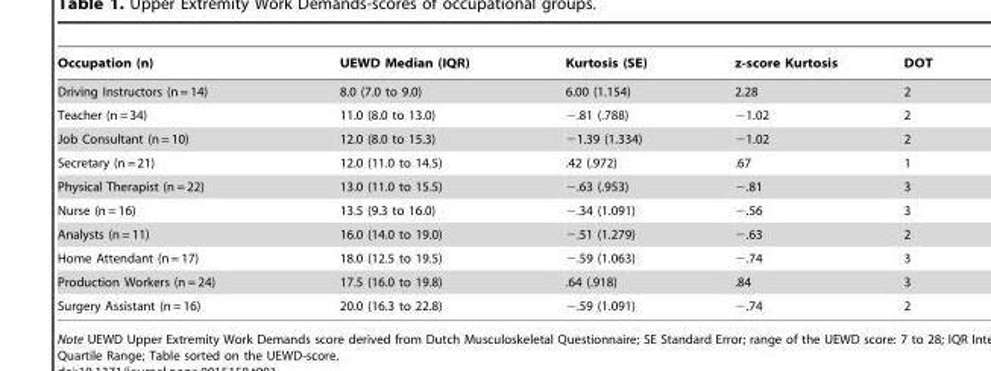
<table><thead><tr><td>Occupation (n)</td><td>UEWD Median (IQR)</td><td>Kurtosis (SE)</td><td>z-score Kurtosis</td><td>DOT</td></tr></thead><tbody><tr><td>Driving Instructors (n = 14)</td><td>8.0 (7.0 to 9.0)</td><td>6.00 (1.154)</td><td>2.28</td><td>2</td></tr><tr><td>Teacher (n = 34)</td><td>11.0 (8.0 to 13.0)</td><td>−.81 (.788)</td><td>−1.02</td><td>2</td></tr><tr><td>Job Consultant (n = 10)</td><td>12.0 (8.0 to 15.3)</td><td>−1.39 (1.334)</td><td>−1.02</td><td>2</td></tr><tr><td>Secretary (n = 21)</td><td>12.0 (11.0 to 14.5)</td><td>.42 (.972)</td><td>.67</td><td>1</td></tr><tr><td>Physical Therapist (n = 22)</td><td>13.0 (11.0 to 15.5)</td><td>−.63 (.953)</td><td>−.81</td><td>3</td></tr><tr><td>Nurse (n = 16)</td><td>13.5 (9.3 to 16.0)</td><td>−.34 (1.091)</td><td>−.56</td><td>3</td></tr><tr><td>Analysts (n = 11)</td><td>16.0 (14.0 to 19.0)</td><td>−.51 (1.279)</td><td>−.63</td><td>2</td></tr><tr><td>Home Attendant (n = 17)</td><td>18.0 (12.5 to 19.5)</td><td>−.59 (1.063)</td><td>−.74</td><td>3</td></tr><tr><td>Production Workers (n = 24)</td><td>17.5 (16.0 to 19.8)</td><td>.64 (.918)</td><td>.84</td><td>3</td></tr><tr><td>Surgery Assistant (n = 16)</td><td>20.0 (16.3 to 22.8)</td><td>−.59 (1.091)</td><td>−.74</td><td>2</td></tr></tbody></table>